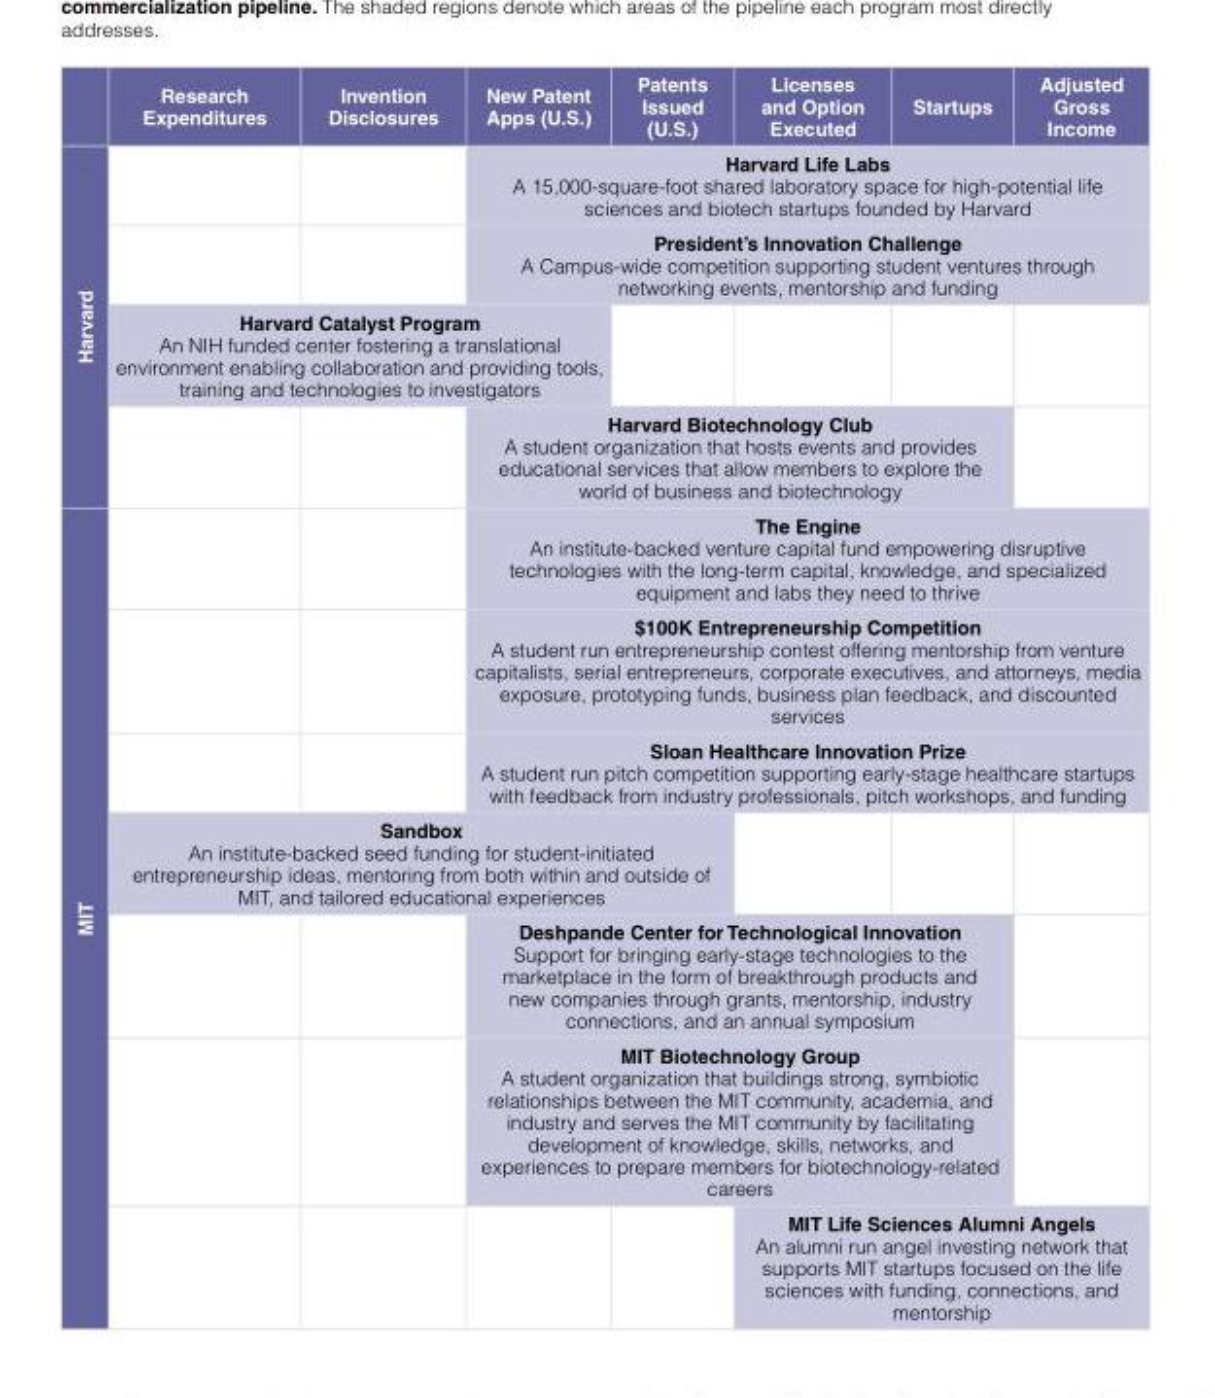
<table><thead><tr><td></td><td>Research Expenditures</td><td>Invention Disclosures</td><td>New Patent Apps (U.S.)</td><td>Patents Issued (U.S.)</td><td>Licenses and Option Executed</td><td>Startups</td><td>Adjusted Gross Income</td></tr></thead><tbody><tr><td rowspan="4">Harvard</td><td></td><td></td><td colspan="5">Harvard Life Labs A 15,000-square-foot shared laboratory space for high-potential life sciences and biotech startups founded by Harvard</td></tr><tr><td></td><td></td><td colspan="5">President’s Innovation Challenge A Campus-wide competition supporting student ventures through networking events, mentorship and funding</td></tr><tr><td colspan="3">Harvard Catalyst Program An NIH funded center fostering a translational environment enabling collaboration and providing tools, training and technologies to investigators</td><td></td><td></td><td></td><td></td></tr><tr><td></td><td></td><td colspan="4">Harvard Biotechnology Club A student organization that hosts events and provides educational services that allow members to explore the world of business and biotechnology</td><td></td></tr><tr><td rowspan="7">MIT</td><td></td><td></td><td colspan="5">The Engine An institute-backed venture capital fund empowering disruptive technologies with the long-term capital, knowledge, and specialized equipment and labs they need to thrive</td></tr><tr><td></td><td></td><td colspan="5">$100K Entrepreneurship Competition A student run entrepreneurship contest offering mentorship from venture capitalists, serial entrepreneurs, corporate executives, and attorneys, media exposure, prototyping funds, business plan feedback, and discounted services</td></tr><tr><td></td><td></td><td colspan="5">Sloan Healthcare Innovation Prize A student run pitch competition supporting early-stage healthcare startups with feedback from industry professionals, pitch workshops, and funding</td></tr><tr><td colspan="4">Sandbox An institute-backed seed funding for student-initiated entrepreneurship ideas, mentoring from both within and outside of MIT, and tailored educational experiences</td><td></td><td></td><td></td></tr><tr><td></td><td></td><td colspan="4">Deshpande Center for Technological Innovation Support for bringing early-stage technologies to the marketplace in the form of breakthrough products and new companies through grants, mentorship, industry connections, and an annual symposium</td><td></td></tr><tr><td></td><td></td><td colspan="4">MIT Biotechnology Group A student organization that buildings strong, symbiotic relationships between the MIT community, academia, and industry and serves the MIT community by facilitating development of knowledge, skills, networks, and experiences to prepare members for biotechnology-related careers</td><td></td></tr><tr><td></td><td></td><td></td><td></td><td colspan="3">MIT Life Sciences Alumni Angels An alumni run angel investing network that supports MIT startups focused on the life sciences with funding, connections, and mentorship</td></tr></tbody></table>